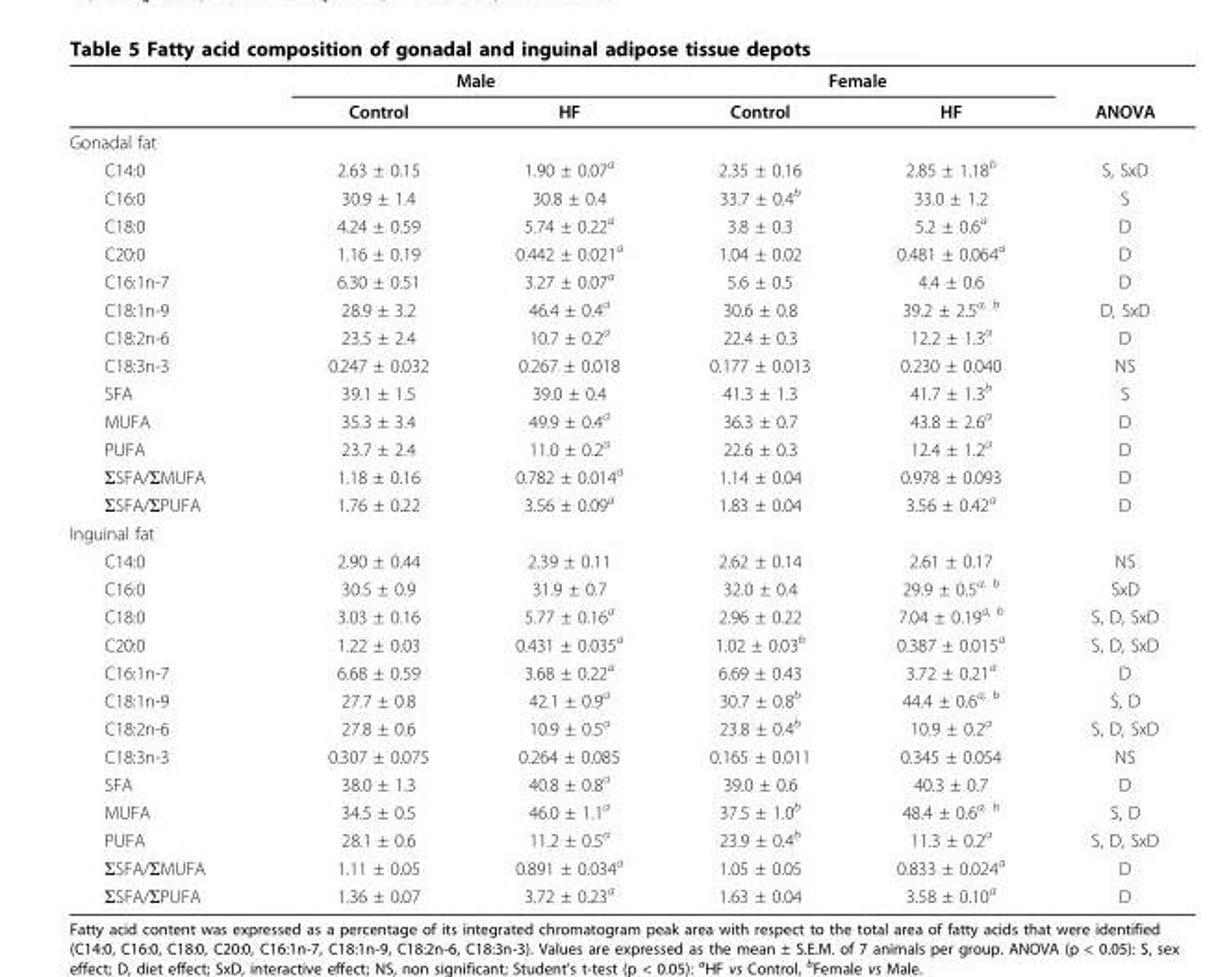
<table><thead><tr><td rowspan="2"></td><td colspan="2">Male</td><td colspan="2">Female</td><td rowspan="2">ANOVA</td></tr><tr><td>Control</td><td>HF</td><td>Control</td><td>HF</td></tr></thead><tbody><tr><td colspan="6">Gonadal fat</td></tr><tr><td>C14:0</td><td>2.63 ± 0.15</td><td>1.90 ± 0.07<sup>a</sup></td><td>2.35 ± 0.16</td><td>2.85 ± 1.18<sup>b</sup></td><td>S, SxD</td></tr><tr><td>C16:0</td><td>30.9 ± 1.4</td><td>30.8 ± 0.4</td><td>33.7 ± 0.4<sup>b</sup></td><td>33.0 ± 1.2</td><td>S</td></tr><tr><td>C18:0</td><td>4.24 ± 0.59</td><td>5.74 ± 0.22<sup>a</sup></td><td>3.8 ± 0.3</td><td>5.2 ± 0.6<sup>a</sup></td><td>D</td></tr><tr><td>C20:0</td><td>1.16 ± 0.19</td><td>0.442 ± 0.021<sup>a</sup></td><td>1.04 ± 0.02</td><td>0.481 ± 0.064<sup>a</sup></td><td>D</td></tr><tr><td>C16:1n-7</td><td>6.30 ± 0.51</td><td>3.27 ± 0.07<sup>a</sup></td><td>5.6 ± 0.5</td><td>4.4 ± 0.6</td><td>D</td></tr><tr><td>C18:1n-9</td><td>28.9 ± 3.2</td><td>46.4 ± 0.4<sup>a</sup></td><td>30.6 ± 0.8</td><td>39.2 ± 2.5<sup>a, b</sup></td><td>D, SxD</td></tr><tr><td>C18:2n-6</td><td>23.5 ± 2.4</td><td>10.7 ± 0.2<sup>a</sup></td><td>22.4 ± 0.3</td><td>12.2 ± 1.3<sup>a</sup></td><td>D</td></tr><tr><td>C18:3n-3</td><td>0.247 ± 0.032</td><td>0.267 ± 0.018</td><td>0.177 ± 0.013</td><td>0.230 ± 0.040</td><td>NS</td></tr><tr><td>SFA</td><td>39.1 ± 1.5</td><td>39.0 ± 0.4</td><td>41.3 ± 1.3</td><td>41.7 ± 1.3<sup>b</sup></td><td>S</td></tr><tr><td>MUFA</td><td>35.3 ± 3.4</td><td>49.9 ± 0.4<sup>a</sup></td><td>36.3 ± 0.7</td><td>43.8 ± 2.6<sup>a</sup></td><td>D</td></tr><tr><td>PUFA</td><td>23.7 ± 2.4</td><td>11.0 ± 0.2<sup>a</sup></td><td>22.6 ± 0.3</td><td>12.4 ± 1.2<sup>a</sup></td><td>D</td></tr><tr><td>ΣSFA/ΣMUFA</td><td>1.18 ± 0.16</td><td>0.782 ± 0.014<sup>a</sup></td><td>1.14 ± 0.04</td><td>0.978 ± 0.093</td><td>D</td></tr><tr><td>ΣSFA/ΣPUFA</td><td>1.76 ± 0.22</td><td>3.56 ± 0.09<sup>a</sup></td><td>1.83 ± 0.04</td><td>3.56 ± 0.42<sup>a</sup></td><td>D</td></tr><tr><td colspan="6">Inguinal fat</td></tr><tr><td>C14:0</td><td>2.90 ± 0.44</td><td>2.39 ± 0.11</td><td>2.62 ± 0.14</td><td>2.61 ± 0.17</td><td>NS</td></tr><tr><td>C16:0</td><td>30.5 ± 0.9</td><td>31.9 ± 0.7</td><td>32.0 ± 0.4</td><td>29.9 ± 0.5<sup>a, b</sup></td><td>SxD</td></tr><tr><td>C18:0</td><td>3.03 ± 0.16</td><td>5.77 ± 0.16<sup>a</sup></td><td>2.96 ± 0.22</td><td>7.04 ± 0.19<sup>a, b</sup></td><td>S, D, SxD</td></tr><tr><td>C20:0</td><td>1.22 ± 0.03</td><td>0.431 ± 0.035<sup>a</sup></td><td>1.02 ± 0.03<sup>b</sup></td><td>0.387 ± 0.015<sup>a</sup></td><td>S, D, SxD</td></tr><tr><td>C16:1n-7</td><td>6.68 ± 0.59</td><td>3.68 ± 0.22<sup>a</sup></td><td>6.69 ± 0.43</td><td>3.72 ± 0.21<sup>a</sup></td><td>D</td></tr><tr><td>C18:1n-9</td><td>27.7 ± 0.8</td><td>42.1 ± 0.9<sup>a</sup></td><td>30.7 ± 0.8<sup>b</sup></td><td>44.4 ± 0.6<sup>a, b</sup></td><td>S, D</td></tr><tr><td>C18:2n-6</td><td>27.8 ± 0.6</td><td>10.9 ± 0.5<sup>a</sup></td><td>23.8 ± 0.4<sup>b</sup></td><td>10.9 ± 0.2<sup>a</sup></td><td>S, D, SxD</td></tr><tr><td>C18:3n-3</td><td>0.307 ± 0.075</td><td>0.264 ± 0.085</td><td>0.165 ± 0.011</td><td>0.345 ± 0.054</td><td>NS</td></tr><tr><td>SFA</td><td>38.0 ± 1.3</td><td>40.8 ± 0.8<sup>a</sup></td><td>39.0 ± 0.6</td><td>40.3 ± 0.7</td><td>D</td></tr><tr><td>MUFA</td><td>34.5 ± 0.5</td><td>46.0 ± 1.1<sup>a</sup></td><td>37.5 ± 1.0<sup>b</sup></td><td>48.4 ± 0.6<sup>a, b</sup></td><td>S, D</td></tr><tr><td>PUFA</td><td>28.1 ± 0.6</td><td>11.2 ± 0.5<sup>a</sup></td><td>23.9 ± 0.4<sup>b</sup></td><td>11.3 ± 0.2<sup>a</sup></td><td>S, D, SxD</td></tr><tr><td>ΣSFA/ΣMUFA</td><td>1.11 ± 0.05</td><td>0.891 ± 0.034<sup>a</sup></td><td>1.05 ± 0.05</td><td>0.833 ± 0.024<sup>a</sup></td><td>D</td></tr><tr><td>ΣSFA/ΣPUFA</td><td>1.36 ± 0.07</td><td>3.72 ± 0.23<sup>a</sup></td><td>1.63 ± 0.04</td><td>3.58 ± 0.10<sup>a</sup></td><td>D</td></tr></tbody></table>